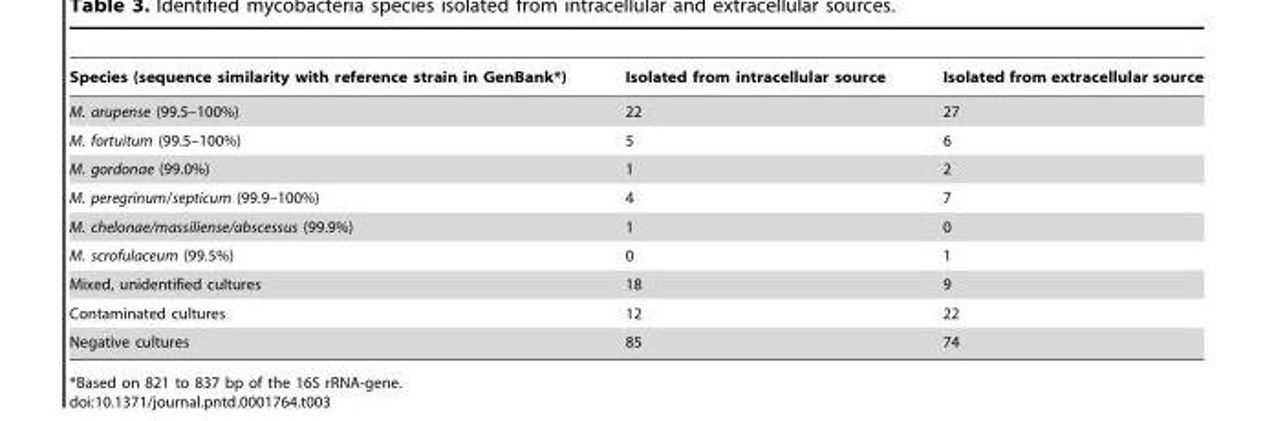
<table><thead><tr><td>Species (sequence similarity with reference strain in GenBank*)</td><td>Isolated from intracellular source</td><td>Isolated from extracellular source</td></tr></thead><tbody><tr><td>M. arupense (99.5–100%)</td><td>22</td><td>27</td></tr><tr><td>M. fortuitum (99.5–100%)</td><td>5</td><td>6</td></tr><tr><td>M. gordonae (99.0%)</td><td>1</td><td>2</td></tr><tr><td>M. peregrinum/septicum (99.9–100%)</td><td>4</td><td>7</td></tr><tr><td>M. chelonae/massiliense/abscessus (99.9%)</td><td>1</td><td>0</td></tr><tr><td>M. scrofulaceum (99.5%)</td><td>0</td><td>1</td></tr><tr><td>Mixed, unidentified cultures</td><td>18</td><td>9</td></tr><tr><td>Contaminated cultures</td><td>12</td><td>22</td></tr><tr><td>Negative cultures</td><td>85</td><td>74</td></tr></tbody></table>